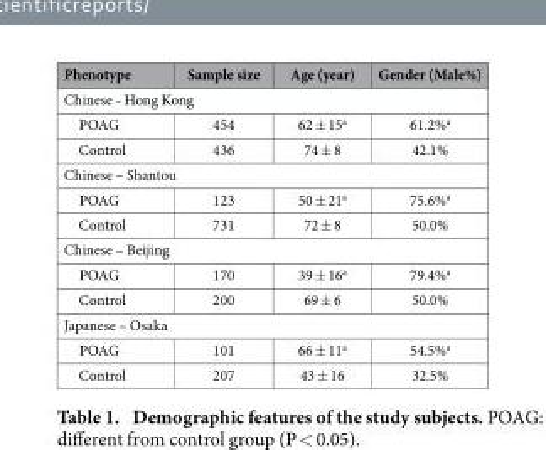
<table><thead><tr><td>Phenotype</td><td>Sample size</td><td>Age (year)</td><td>Gender (Male%)</td></tr></thead><tbody><tr><td colspan="4">Chinese - Hong Kong</td></tr><tr><td>POAG</td><td>454</td><td>62 ± 15<sup>a</sup></td><td>61.2%<sup>a</sup></td></tr><tr><td>Control</td><td>436</td><td>74 ± 8</td><td>42.1%</td></tr><tr><td colspan="4">Chinese – Shantou</td></tr><tr><td>POAG</td><td>123</td><td>50 ± 21<sup>a</sup></td><td>75.6%<sup>a</sup></td></tr><tr><td>Control</td><td>731</td><td>72 ± 8</td><td>50.0%</td></tr><tr><td colspan="4">Chinese – Beijing</td></tr><tr><td>POAG</td><td>170</td><td>39 ± 16<sup>a</sup></td><td>79.4%<sup>a</sup></td></tr><tr><td>Control</td><td>200</td><td>69 ± 6</td><td>50.0%</td></tr><tr><td colspan="4">Japanese – Osaka</td></tr><tr><td>POAG</td><td>101</td><td>66 ± 11<sup>a</sup></td><td>54.5%<sup>a</sup></td></tr><tr><td>Control</td><td>207</td><td>43 ± 16</td><td>32.5%</td></tr></tbody></table>